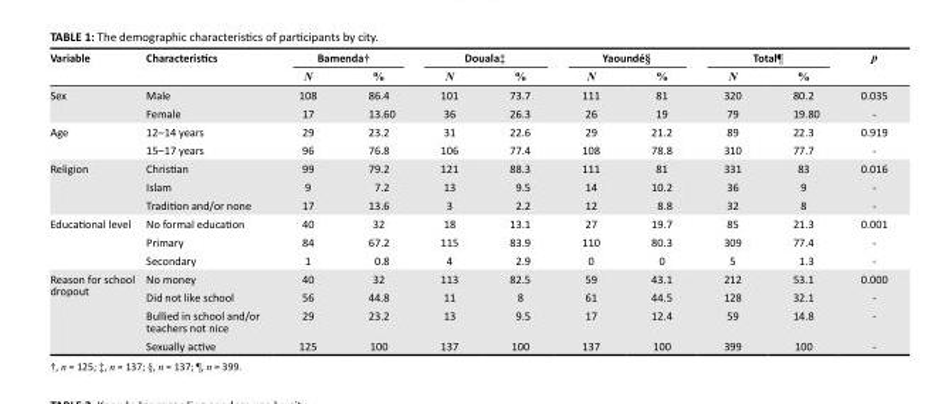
<table><thead><tr><td rowspan="2">Variable</td><td rowspan="2">Characteristics</td><td colspan="2">Bamenda†</td><td colspan="2">Douala‡</td><td colspan="2">Yaoundé§</td><td colspan="2">Total¶</td><td rowspan="2">p</td></tr><tr><td>N</td><td>%</td><td>N</td><td>%</td><td>N</td><td>%</td><td>N</td><td>%</td></tr></thead><tbody><tr><td rowspan="2">Sex</td><td>Male</td><td>108</td><td>86.4</td><td>101</td><td>73.7</td><td>111</td><td>81</td><td>320</td><td>80.2</td><td>0.035</td></tr><tr><td>Female</td><td>17</td><td>13.60</td><td>36</td><td>26.3</td><td>26</td><td>19</td><td>79</td><td>19.80</td><td>-</td></tr><tr><td rowspan="2">Age</td><td>12–14 years</td><td>29</td><td>23.2</td><td>31</td><td>22.6</td><td>29</td><td>21.2</td><td>89</td><td>22.3</td><td>0.919</td></tr><tr><td>15–17 years</td><td>96</td><td>76.8</td><td>106</td><td>77.4</td><td>108</td><td>78.8</td><td>310</td><td>77.7</td><td>-</td></tr><tr><td rowspan="3">Religion</td><td>Christian</td><td>99</td><td>79.2</td><td>121</td><td>88.3</td><td>111</td><td>81</td><td>331</td><td>83</td><td>0.016</td></tr><tr><td>Islam</td><td>9</td><td>7.2</td><td>13</td><td>9.5</td><td>14</td><td>10.2</td><td>36</td><td>9</td><td>-</td></tr><tr><td>Tradition and/or none</td><td>17</td><td>13.6</td><td>3</td><td>2.2</td><td>12</td><td>8.8</td><td>32</td><td>8</td><td>-</td></tr><tr><td rowspan="3">Educational level</td><td>No formal education</td><td>40</td><td>32</td><td>18</td><td>13.1</td><td>27</td><td>19.7</td><td>85</td><td>21.3</td><td>0.001</td></tr><tr><td>Primary</td><td>84</td><td>67.2</td><td>115</td><td>83.9</td><td>110</td><td>80.3</td><td>309</td><td>77.4</td><td>-</td></tr><tr><td>Secondary</td><td>1</td><td>0.8</td><td>4</td><td>2.9</td><td>0</td><td>0</td><td>5</td><td>1.3</td><td>-</td></tr><tr><td rowspan="4">Reason for school dropout</td><td>No money</td><td>40</td><td>32</td><td>113</td><td>82.5</td><td>59</td><td>43.1</td><td>212</td><td>53.1</td><td>0.000</td></tr><tr><td>Did not like school</td><td>56</td><td>44.8</td><td>11</td><td>8</td><td>61</td><td>44.5</td><td>128</td><td>32.1</td><td>-</td></tr><tr><td>Bullied in school and/or teachers not nice</td><td>29</td><td>23.2</td><td>13</td><td>9.5</td><td>17</td><td>12.4</td><td>59</td><td>14.8</td><td>-</td></tr><tr><td>Sexually active</td><td>125</td><td>100</td><td>137</td><td>100</td><td>137</td><td>100</td><td>399</td><td>100</td><td>-</td></tr></tbody></table>